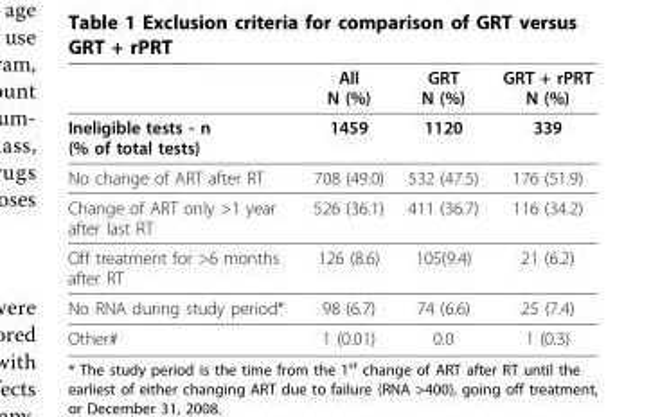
<table><thead><tr><td></td><td>All N (%)</td><td>GRT N (%)</td><td>GRT + rPRT N (%)</td></tr></thead><tbody><tr><td>Ineligible tests - n (% of total tests)</td><td>1459</td><td>1120</td><td>339</td></tr><tr><td>No change of ART after RT</td><td>708 (49.0)</td><td>532 (47.5)</td><td>176 (51.9)</td></tr><tr><td>Change of ART only &gt;1 year after last RT</td><td>526 (36.1)</td><td>411 (36.7)</td><td>116 (34.2)</td></tr><tr><td>Off treatment for &gt;6 months after RT</td><td>126 (8.6)</td><td>105(9.4)</td><td>21 (6.2)</td></tr><tr><td>No RNA during study period*</td><td>98 (6.7)</td><td>74 (6.6)</td><td>25 (7.4)</td></tr><tr><td>Other#</td><td>1 (0.01)</td><td>0.0</td><td>1 (0.3)</td></tr></tbody></table>